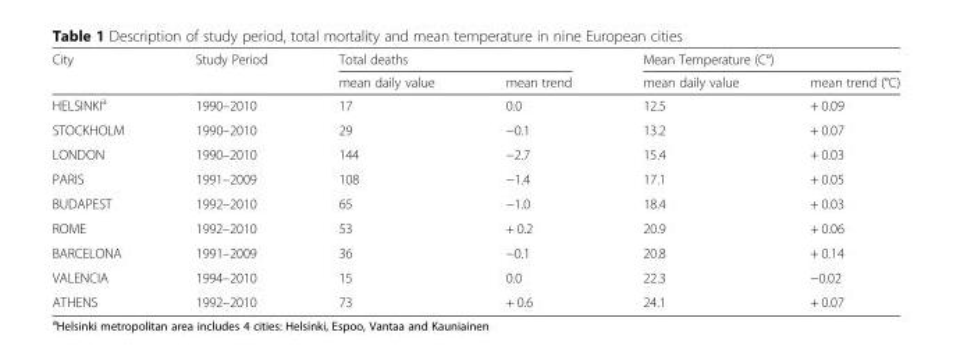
<table><thead><tr><td rowspan="2">City</td><td rowspan="2">Study Period</td><td colspan="2">Total deaths</td><td colspan="2">Mean Temperature (C°)</td></tr><tr><td>mean daily value</td><td>mean trend</td><td>mean daily value</td><td>mean trend (°C)</td></tr></thead><tbody><tr><td>HELSINKI<sup>a</sup></td><td>1990–2010</td><td>17</td><td>0.0</td><td>12.5</td><td>+ 0.09</td></tr><tr><td>STOCKHOLM</td><td>1990–2010</td><td>29</td><td>−0.1</td><td>13.2</td><td>+ 0.07</td></tr><tr><td>LONDON</td><td>1990–2010</td><td>144</td><td>−2.7</td><td>15.4</td><td>+ 0.03</td></tr><tr><td>PARIS</td><td>1991–2009</td><td>108</td><td>−1.4</td><td>17.1</td><td>+ 0.05</td></tr><tr><td>BUDAPEST</td><td>1992–2010</td><td>65</td><td>−1.0</td><td>18.4</td><td>+ 0.03</td></tr><tr><td>ROME</td><td>1992–2010</td><td>53</td><td>+ 0.2</td><td>20.9</td><td>+ 0.06</td></tr><tr><td>BARCELONA</td><td>1991–2009</td><td>36</td><td>−0.1</td><td>20.8</td><td>+ 0.14</td></tr><tr><td>VALENCIA</td><td>1994–2010</td><td>15</td><td>0.0</td><td>22.3</td><td>−0.02</td></tr><tr><td>ATHENS</td><td>1992–2010</td><td>73</td><td>+ 0.6</td><td>24.1</td><td>+ 0.07</td></tr></tbody></table>